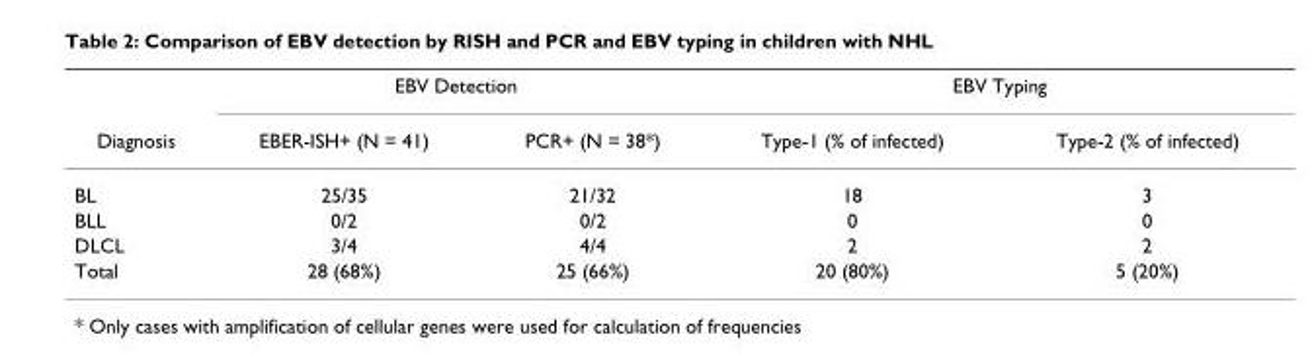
<table><thead><tr><td rowspan="2">Diagnosis</td><td colspan="2">EBV Detection</td><td colspan="2">EBV Typing</td></tr><tr><td>EBER-ISH+ (N = 41)</td><td>PCR+ (N = 38*)</td><td>Type-1 (% of infected)</td><td>Type-2 (% of infected)</td></tr></thead><tbody><tr><td>BL</td><td>25/35</td><td>21/32</td><td>18</td><td>3</td></tr><tr><td>BLL</td><td>0/2</td><td>0/2</td><td>0</td><td>0</td></tr><tr><td>DLCL</td><td>3/4</td><td>4/4</td><td>2</td><td>2</td></tr><tr><td>Total</td><td>28 (68%)</td><td>25 (66%)</td><td>20 (80%)</td><td>5 (20%)</td></tr></tbody></table>